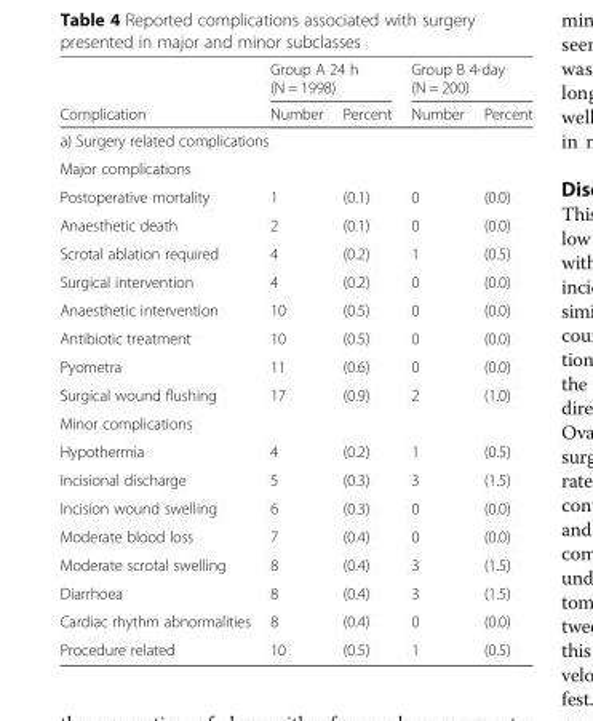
<table><thead><tr><td rowspan="2">Complication</td><td colspan="2">Group A 24 h (N = 1998)</td><td colspan="2">Group B 4-day (N = 200)</td></tr><tr><td>Number</td><td>Percent</td><td>Number</td><td>Percent</td></tr></thead><tbody><tr><td colspan="5">a) Surgery related complications</td></tr><tr><td colspan="5">Major complications</td></tr><tr><td>Postoperative mortality</td><td>1</td><td>(0.1)</td><td>0</td><td>(0.0)</td></tr><tr><td>Anaesthetic death</td><td>2</td><td>(0.1)</td><td>0</td><td>(0.0)</td></tr><tr><td>Scrotal ablation required</td><td>4</td><td>(0.2)</td><td>1</td><td>(0.5)</td></tr><tr><td>Surgical intervention</td><td>4</td><td>(0.2)</td><td>0</td><td>(0.0)</td></tr><tr><td>Anaesthetic intervention</td><td>10</td><td>(0.5)</td><td>0</td><td>(0.0)</td></tr><tr><td>Antibiotic treatment</td><td>10</td><td>(0.5)</td><td>0</td><td>(0.0)</td></tr><tr><td>Pyometra</td><td>11</td><td>(0.6)</td><td>0</td><td>(0.0)</td></tr><tr><td>Surgical wound flushing</td><td>17</td><td>(0.9)</td><td>2</td><td>(1.0)</td></tr><tr><td colspan="5">Minor complications</td></tr><tr><td>Hypothermia</td><td>4</td><td>(0.2)</td><td>1</td><td>(0.5)</td></tr><tr><td>Incisional discharge</td><td>5</td><td>(0.3)</td><td>3</td><td>(1.5)</td></tr><tr><td>Incision wound swelling</td><td>6</td><td>(0.3)</td><td>0</td><td>(0.0)</td></tr><tr><td>Moderate blood loss</td><td>7</td><td>(0.4)</td><td>0</td><td>(0.0)</td></tr><tr><td>Moderate scrotal swelling</td><td>8</td><td>(0.4)</td><td>3</td><td>(1.5)</td></tr><tr><td>Diarrhoea</td><td>8</td><td>(0.4)</td><td>3</td><td>(1.5)</td></tr><tr><td>Cardiac rhythm abnormalities</td><td>8</td><td>(0.4)</td><td>0</td><td>(0.0)</td></tr><tr><td>Procedure related</td><td>10</td><td>(0.5)</td><td>1</td><td>(0.5)</td></tr></tbody></table>